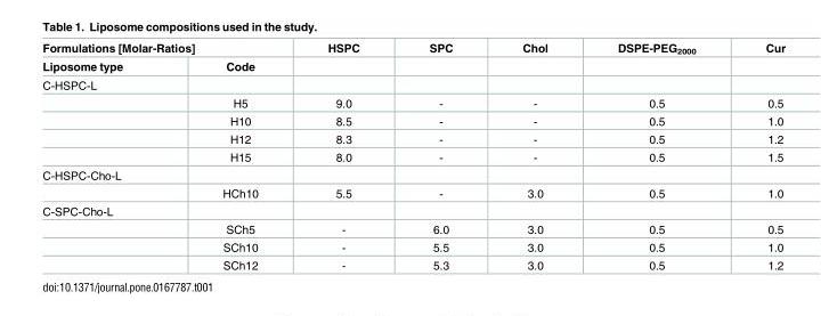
<table><thead><tr><td colspan="2">Formulations [Molar-Ratios]</td><td rowspan="2">HSPC</td><td rowspan="2">SPC</td><td rowspan="2">Chol</td><td rowspan="2">DSPE-PEG<sub>2000</sub></td><td rowspan="2">Cur</td></tr><tr><td>Liposome type</td><td>Code</td></tr></thead><tbody><tr><td colspan="7">C-HSPC-L</td></tr><tr><td></td><td>H5</td><td>9.0</td><td>-</td><td>-</td><td>0.5</td><td>0.5</td></tr><tr><td></td><td>H10</td><td>8.5</td><td>-</td><td>-</td><td>0.5</td><td>1.0</td></tr><tr><td></td><td>H12</td><td>8.3</td><td>-</td><td>-</td><td>0.5</td><td>1.2</td></tr><tr><td></td><td>H15</td><td>8.0</td><td>-</td><td>-</td><td>0.5</td><td>1.5</td></tr><tr><td colspan="7">C-HSPC-Cho-L</td></tr><tr><td></td><td>HCh10</td><td>5.5</td><td>-</td><td>3.0</td><td>0.5</td><td>1.0</td></tr><tr><td colspan="7">C-SPC-Cho-L</td></tr><tr><td></td><td>SCh5</td><td>-</td><td>6.0</td><td>3.0</td><td>0.5</td><td>0.5</td></tr><tr><td></td><td>SCh10</td><td>-</td><td>5.5</td><td>3.0</td><td>0.5</td><td>1.0</td></tr><tr><td></td><td>SCh12</td><td>-</td><td>5.3</td><td>3.0</td><td>0.5</td><td>1.2</td></tr></tbody></table>